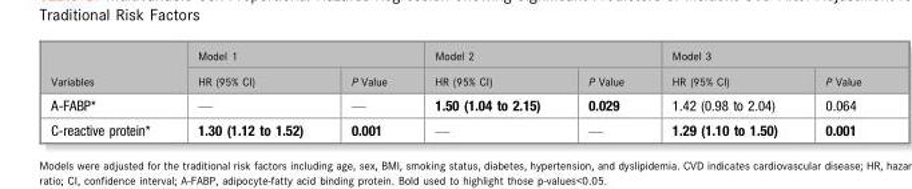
<table><thead><tr><td rowspan="2">Variables</td><td colspan="2">Model 1</td><td colspan="2">Model 2</td><td colspan="2">Model 3</td></tr><tr><td>HR (95% CI)</td><td>P Value</td><td>HR (95% CI)</td><td>P Value</td><td>HR (95% CI)</td><td>P Value</td></tr></thead><tbody><tr><td>A-FABP*</td><td>—</td><td>—</td><td>1.50 (1.04 to 2.15)</td><td>0.029</td><td>1.42 (0.98 to 2.04)</td><td>0.064</td></tr><tr><td>C-reactive protein*</td><td>1.30 (1.12 to 1.52)</td><td>0.001</td><td>—</td><td>—</td><td>1.29 (1.10 to 1.50)</td><td>0.001</td></tr></tbody></table>